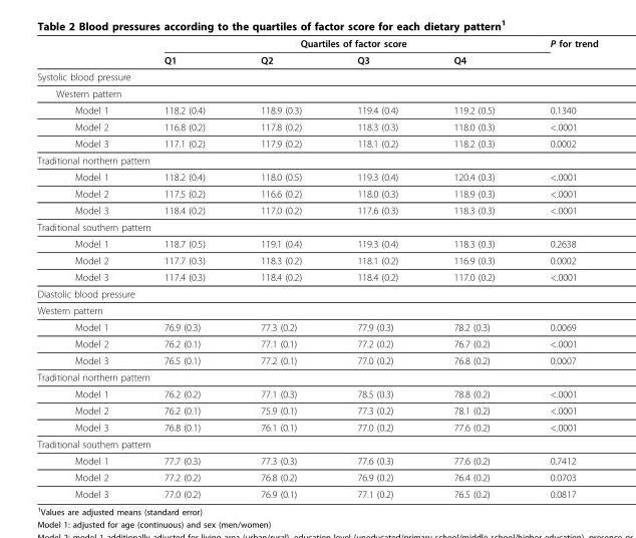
<table><thead><tr><td rowspan="2"></td><td colspan="4">Quartiles of factor score</td><td rowspan="2">P for trend</td></tr><tr><td>Q1</td><td>Q2</td><td>Q3</td><td>Q4</td></tr></thead><tbody><tr><td colspan="6">Systolic blood pressure</td></tr><tr><td colspan="6">Western pattern</td></tr><tr><td>Model 1</td><td>118.2 (0.4)</td><td>118.9 (0.3)</td><td>119.4 (0.4)</td><td>119.2 (0.5)</td><td>0.1340</td></tr><tr><td>Model 2</td><td>116.8 (0.2)</td><td>117.8 (0.2)</td><td>118.3 (0.3)</td><td>118.0 (0.3)</td><td>&lt;.0001</td></tr><tr><td>Model 3</td><td>117.1 (0.2)</td><td>117.9 (0.2)</td><td>118.1 (0.2)</td><td>118.2 (0.3)</td><td>0.0002</td></tr><tr><td colspan="6">Traditional northern pattern</td></tr><tr><td>Model 1</td><td>118.2 (0.4)</td><td>118.0 (0.5)</td><td>119.3 (0.4)</td><td>120.4 (0.3)</td><td>&lt;.0001</td></tr><tr><td>Model 2</td><td>117.5 (0.2)</td><td>116.6 (0.2)</td><td>118.0 (0.3)</td><td>118.9 (0.3)</td><td>&lt;.0001</td></tr><tr><td>Model 3</td><td>118.4 (0.2)</td><td>117.0 (0.2)</td><td>117.6 (0.3)</td><td>118.3 (0.3)</td><td>&lt;.0001</td></tr><tr><td colspan="6">Traditional southern pattern</td></tr><tr><td>Model 1</td><td>118.7 (0.5)</td><td>119.1 (0.4)</td><td>119.3 (0.4)</td><td>118.3 (0.3)</td><td>0.2638</td></tr><tr><td>Model 2</td><td>117.7 (0.3)</td><td>118.3 (0.2)</td><td>118.1 (0.2)</td><td>116.9 (0.3)</td><td>0.0002</td></tr><tr><td>Model 3</td><td>117.4 (0.3)</td><td>118.4 (0.2)</td><td>118.4 (0.2)</td><td>117.0 (0.2)</td><td>&lt;.0001</td></tr><tr><td colspan="6">Diastolic blood pressure</td></tr><tr><td colspan="6">Western pattern</td></tr><tr><td>Model 1</td><td>76.9 (0.3)</td><td>77.3 (0.2)</td><td>77.9 (0.3)</td><td>78.2 (0.3)</td><td>0.0069</td></tr><tr><td>Model 2</td><td>76.2 (0.1)</td><td>77.1 (0.1)</td><td>77.2 (0.2)</td><td>76.7 (0.2)</td><td>&lt;.0001</td></tr><tr><td>Model 3</td><td>76.5 (0.1)</td><td>77.2 (0.1)</td><td>77.0 (0.2)</td><td>76.8 (0.2)</td><td>0.0007</td></tr><tr><td colspan="6">Traditional northern pattern</td></tr><tr><td>Model 1</td><td>76.2 (0.2)</td><td>77.1 (0.3)</td><td>78.5 (0.3)</td><td>78.8 (0.2)</td><td>&lt;.0001</td></tr><tr><td>Model 2</td><td>76.2 (0.1)</td><td>75.9 (0.1)</td><td>77.3 (0.2)</td><td>78.1 (0.2)</td><td>&lt;.0001</td></tr><tr><td>Model 3</td><td>76.8 (0.1)</td><td>76.1 (0.1)</td><td>77.0 (0.2)</td><td>77.6 (0.2)</td><td>&lt;.0001</td></tr><tr><td colspan="6">Traditional southern pattern</td></tr><tr><td>Model 1</td><td>77.7 (0.3)</td><td>77.3 (0.3)</td><td>77.6 (0.3)</td><td>77.6 (0.2)</td><td>0.7412</td></tr><tr><td>Model 2</td><td>77.2 (0.2)</td><td>76.8 (0.2)</td><td>76.9 (0.2)</td><td>76.4 (0.2)</td><td>0.0703</td></tr><tr><td>Model 3</td><td>77.0 (0.2)</td><td>76.9 (0.1)</td><td>77.1 (0.2)</td><td>76.5 (0.2)</td><td>0.0817</td></tr></tbody></table>